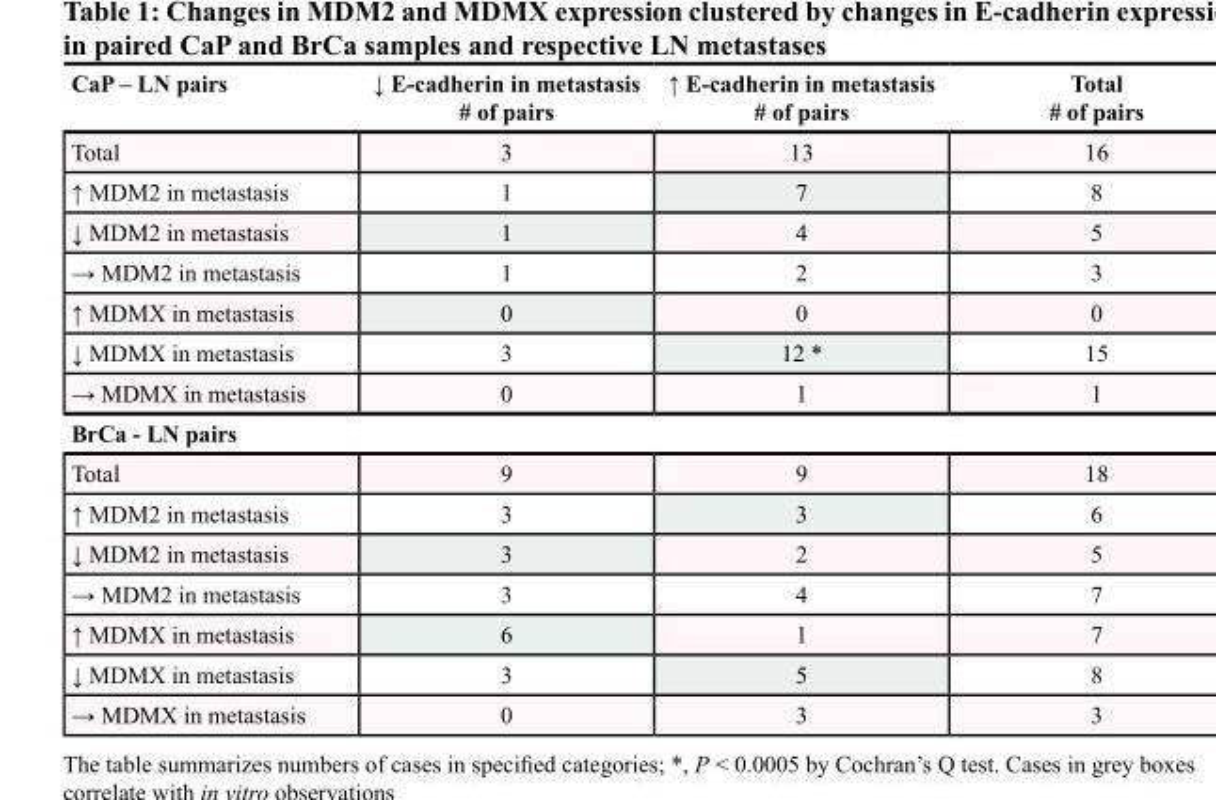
<table><thead><tr><td>CaP – LN pairs</td><td>↓ E-cadherin in metastasis # of pairs</td><td>↑ E-cadherin in metastasis # of pairs</td><td>Total # of pairs</td></tr></thead><tbody><tr><td>Total</td><td>3</td><td>13</td><td>16</td></tr><tr><td>↑ MDM2 in metastasis</td><td>1</td><td>7</td><td>8</td></tr><tr><td>↓ MDM2 in metastasis</td><td>1</td><td>4</td><td>5</td></tr><tr><td>→ MDM2 in metastasis</td><td>1</td><td>2</td><td>3</td></tr><tr><td>↑ MDMX in metastasis</td><td>0</td><td>0</td><td>0</td></tr><tr><td>↓ MDMX in metastasis</td><td>3</td><td>12 *</td><td>15</td></tr><tr><td>→ MDMX in metastasis</td><td>0</td><td>1</td><td>1</td></tr><tr><td colspan="4">BrCa - LN pairs</td></tr><tr><td>Total</td><td>9</td><td>9</td><td>18</td></tr><tr><td>↑ MDM2 in metastasis</td><td>3</td><td>3</td><td>6</td></tr><tr><td>↓ MDM2 in metastasis</td><td>3</td><td>2</td><td>5</td></tr><tr><td>→ MDM2 in metastasis</td><td>3</td><td>4</td><td>7</td></tr><tr><td>↑ MDMX in metastasis</td><td>6</td><td>1</td><td>7</td></tr><tr><td>↓ MDMX in metastasis</td><td>3</td><td>5</td><td>8</td></tr><tr><td>→ MDMX in metastasis</td><td>0</td><td>3</td><td>3</td></tr></tbody></table>